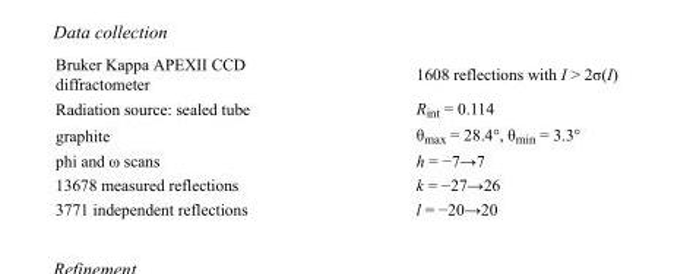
<table><tbody><tr><td>Bruker Kappa APEXII CCD diffractometer</td><td>1608 reflections with I &gt; 2σ(I)</td></tr><tr><td>Radiation source: sealed tube</td><td>R<sub>int</sub> = 0.114</td></tr><tr><td>graphite</td><td>θ<sub>max</sub> = 28.4°, θ<sub>min</sub> = 3.3°</td></tr><tr><td>phi and ω scans</td><td>h = −7→7</td></tr><tr><td>13678 measured reflections</td><td>k = −27→26</td></tr><tr><td>3771 independent reflections</td><td>l = −20→20</td></tr></tbody></table>